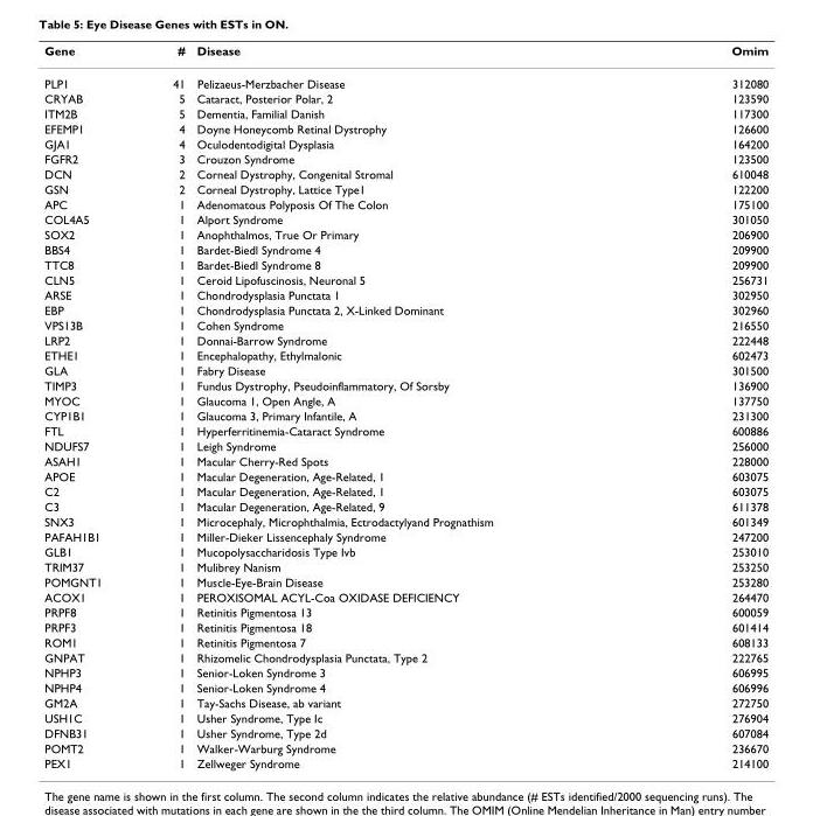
<table><thead><tr><td>Gene</td><td>#</td><td>Disease</td><td>Omim</td></tr></thead><tbody><tr><td>PLP1</td><td>41</td><td>Pelizaeus-Merzbacher Disease</td><td>312080</td></tr><tr><td>CRYAB</td><td>5</td><td>Cataract, Posterior Polar, 2</td><td>123590</td></tr><tr><td>ITM2B</td><td>5</td><td>Dementia, Familial Danish</td><td>117300</td></tr><tr><td>EFEMP1</td><td>4</td><td>Doyne Honeycomb Retinal Dystrophy</td><td>126600</td></tr><tr><td>GJA1</td><td>4</td><td>Oculodentodigital Dysplasia</td><td>164200</td></tr><tr><td>FGFR2</td><td>3</td><td>Crouzon Syndrome</td><td>123500</td></tr><tr><td>DCN</td><td>2</td><td>Corneal Dystrophy, Congenital Stromal</td><td>610048</td></tr><tr><td>GSN</td><td>2</td><td>Corneal Dystrophy, Lattice Type1</td><td>122200</td></tr><tr><td>APC</td><td>1</td><td>Adenomatous Polyposis Of The Colon</td><td>175100</td></tr><tr><td>COL4A5</td><td>1</td><td>Alport Syndrome</td><td>301050</td></tr><tr><td>SOX2</td><td>1</td><td>Anophthalmos, True Or Primary</td><td>206900</td></tr><tr><td>BBS4</td><td>1</td><td>Bardet-Biedl Syndrome 4</td><td>209900</td></tr><tr><td>TTC8</td><td>1</td><td>Bardet-Biedl Syndrome 8</td><td>209900</td></tr><tr><td>CLN5</td><td>1</td><td>Ceroid Lipofuscinosis, Neuronal 5</td><td>256731</td></tr><tr><td>ARSE</td><td>1</td><td>Chondrodysplasia Punctata 1</td><td>302950</td></tr><tr><td>EBP</td><td>1</td><td>Chondrodysplasia Punctata 2, X-Linked Dominant</td><td>302960</td></tr><tr><td>VPS13B</td><td>1</td><td>Cohen Syndrome</td><td>216550</td></tr><tr><td>LRP2</td><td>1</td><td>Donnai-Barrow Syndrome</td><td>222448</td></tr><tr><td>ETHE1</td><td>1</td><td>Encephalopathy, Ethylmalonic</td><td>602473</td></tr><tr><td>GLA</td><td>1</td><td>Fabry Disease</td><td>301500</td></tr><tr><td>TIMP3</td><td>1</td><td>Fundus Dystrophy, Pseudoinflammatory, Of Sorsby</td><td>136900</td></tr><tr><td>MYOC</td><td>1</td><td>Glaucoma 1, Open Angle, A</td><td>137750</td></tr><tr><td>CYP1B1</td><td>1</td><td>Glaucoma 3, Primary Infantile, A</td><td>231300</td></tr><tr><td>FTL</td><td>1</td><td>Hyperferritinemia-Cataract Syndrome</td><td>600886</td></tr><tr><td>NDUFS7</td><td>1</td><td>Leigh Syndrome</td><td>256000</td></tr><tr><td>ASAH1</td><td>1</td><td>Macular Cherry-Red Spots</td><td>228000</td></tr><tr><td>APOE</td><td>1</td><td>Macular Degeneration, Age-Related, 1</td><td>603075</td></tr><tr><td>C2</td><td>1</td><td>Macular Degeneration, Age-Related, 1</td><td>603075</td></tr><tr><td>C3</td><td>1</td><td>Macular Degeneration, Age-Related, 9</td><td>611378</td></tr><tr><td>SNX3</td><td>1</td><td>Microcephaly, Microphthalmia, Ectrodactylyand Prognathism</td><td>601349</td></tr><tr><td>PAFAH1B1</td><td>1</td><td>Miller-Dieker Lissencephaly Syndrome</td><td>247200</td></tr><tr><td>GLB1</td><td>1</td><td>Mucopolysaccharidosis Type Ivb</td><td>253010</td></tr><tr><td>TRIM37</td><td>1</td><td>Mulibrey Nanism</td><td>253250</td></tr><tr><td>POMGNT1</td><td>1</td><td>Muscle-Eye-Brain Disease</td><td>253280</td></tr><tr><td>ACOX1</td><td>1</td><td>PEROXISOMAL ACYL-Coa OXIDASE DEFICIENCY</td><td>264470</td></tr><tr><td>PRPF8</td><td>1</td><td>Retinitis Pigmentosa 13</td><td>600059</td></tr><tr><td>PRPF3</td><td>1</td><td>Retinitis Pigmentosa 18</td><td>601414</td></tr><tr><td>ROM1</td><td>1</td><td>Retinitis Pigmentosa 7</td><td>608133</td></tr><tr><td>GNPAT</td><td>1</td><td>Rhizomelic Chondrodysplasia Punctata, Type 2</td><td>222765</td></tr><tr><td>NPHP3</td><td>1</td><td>Senior-Loken Syndrome 3</td><td>606995</td></tr><tr><td>NPHP4</td><td>1</td><td>Senior-Loken Syndrome 4</td><td>606996</td></tr><tr><td>GM2A</td><td>1</td><td>Tay-Sachs Disease, ab variant</td><td>272750</td></tr><tr><td>USH1C</td><td>1</td><td>Usher Syndrome, Type Ic</td><td>276904</td></tr><tr><td>DFNB31</td><td>1</td><td>Usher Syndrome, Type 2d</td><td>607084</td></tr><tr><td>POMT2</td><td>1</td><td>Walker-Warburg Syndrome</td><td>236670</td></tr><tr><td>PEX1</td><td>1</td><td>Zellweger Syndrome</td><td>214100</td></tr></tbody></table>